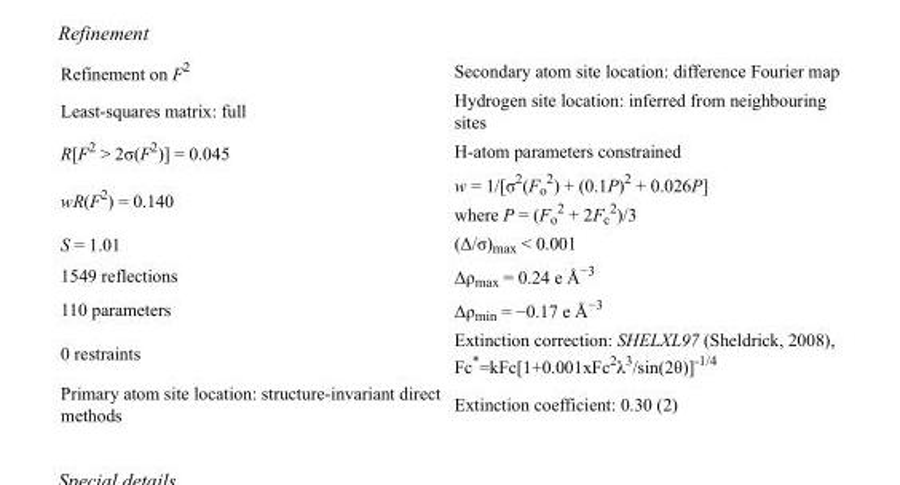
<table><tbody><tr><td>Refinement on F<sup>2</sup></td><td>Secondary atom site location: difference Fourier map</td></tr><tr><td>Least-squares matrix: full</td><td>Hydrogen site location: inferred from neighbouring sites</td></tr><tr><td>R[F<sup>2</sup> &gt; 2σ(F<sup>2</sup>)] = 0.045</td><td>H-atom parameters constrained</td></tr><tr><td>wR(F<sup>2</sup>) = 0.140</td><td>w = 1/[σ<sup>2</sup>(F<sub>o</sub> <sup>2</sup>) + (0.1P)<sup>2</sup> + 0.026P] where P = (F<sub>o</sub> <sup>2</sup> + 2F<sub>c</sub> <sup>2</sup>)/3</td></tr><tr><td>S = 1.01</td><td>(Δ/σ)<sub>max</sub> &lt; 0.001</td></tr><tr><td>1549 reflections</td><td>Δρ<sub>max</sub> = 0.24 e Å<sup>−3</sup></td></tr><tr><td>110 parameters</td><td>Δρ<sub>min</sub> = −0.17 e Å<sup>−3</sup></td></tr><tr><td>0 restraints</td><td>Extinction correction: SHELXL97 (Sheldrick, 2008), Fc*=kFc[1+0.001xFc<sup>2</sup>λ<sup>3</sup>/sin(2θ)]<sup>-1/4</sup></td></tr><tr><td>Primary atom site location: structure-invariant direct methods</td><td>Extinction coefficient: 0.30 (2)</td></tr></tbody></table>